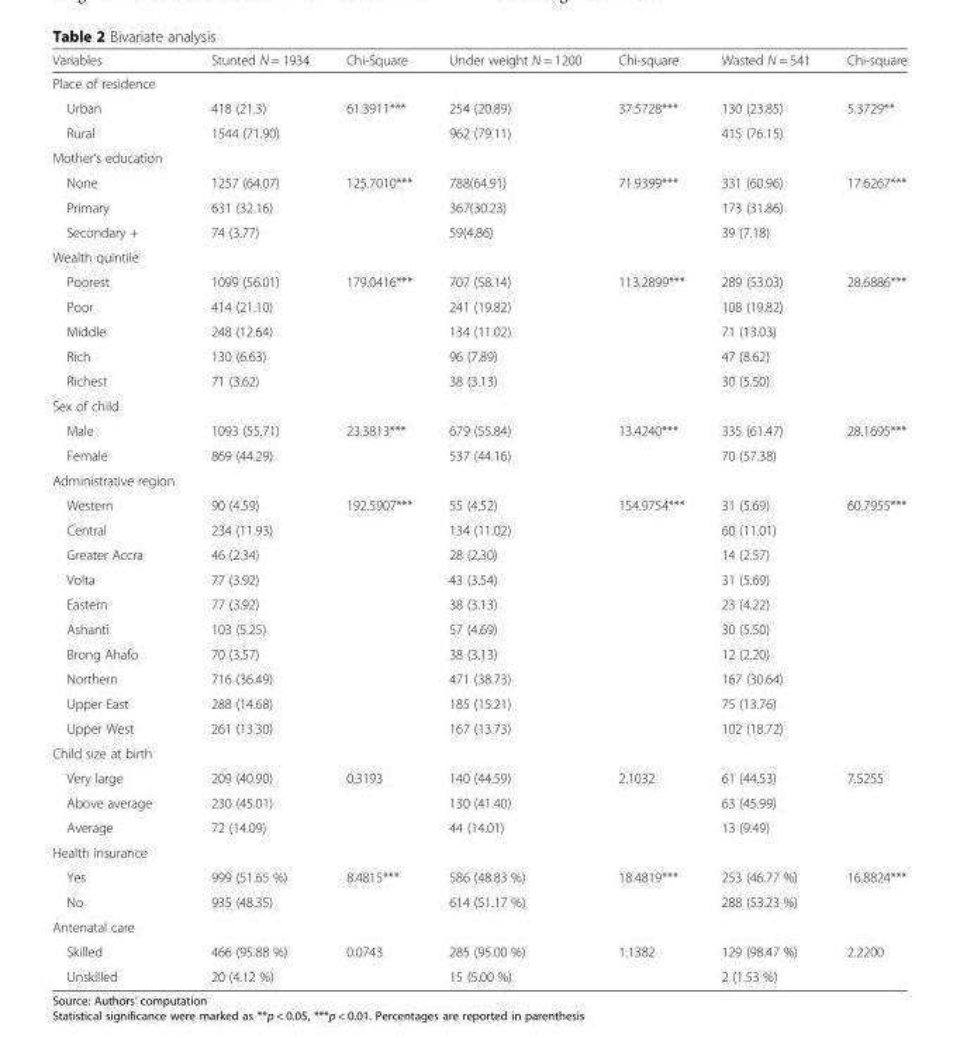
<table><thead><tr><td>Variables</td><td>Stunted N = 1934</td><td>Chi-Square</td><td>Under weight N = 1200</td><td>Chi-square</td><td>Wasted N = 541</td><td>Chi-square</td></tr></thead><tbody><tr><td colspan="7">Place of residence</td></tr><tr><td>Urban</td><td>418 (21.3)</td><td>61.3911***</td><td>254 (20.89)</td><td>37.5728***</td><td>130 (23.85)</td><td>5.3729**</td></tr><tr><td>Rural</td><td>1544 (71.90)</td><td></td><td>962 (79.11)</td><td></td><td>415 (76.15)</td><td></td></tr><tr><td colspan="7">Mother’s education</td></tr><tr><td>None</td><td>1257 (64.07)</td><td>125.7010***</td><td>788(64.91)</td><td>71.9399***</td><td>331 (60.96)</td><td>17.6267***</td></tr><tr><td>Primary</td><td>631 (32.16)</td><td></td><td>367(30.23)</td><td></td><td>173 (31.86)</td><td></td></tr><tr><td>Secondary +</td><td>74 (3.77)</td><td></td><td>59(4.86)</td><td></td><td>39 (7.18)</td><td></td></tr><tr><td colspan="7">Wealth quintile</td></tr><tr><td>Poorest</td><td>1099 (56.01)</td><td>179.0416***</td><td>707 (58.14)</td><td>113.2899***</td><td>289 (53.03)</td><td>28.6886***</td></tr><tr><td>Poor</td><td>414 (21.10)</td><td></td><td>241 (19.82)</td><td></td><td>108 (19.82)</td><td></td></tr><tr><td>Middle</td><td>248 (12.64)</td><td></td><td>134 (11.02)</td><td></td><td>71 (13.03)</td><td></td></tr><tr><td>Rich</td><td>130 (6.63)</td><td></td><td>96 (7.89)</td><td></td><td>47 (8.62)</td><td></td></tr><tr><td>Richest</td><td>71 (3.62)</td><td></td><td>38 (3.13)</td><td></td><td>30 (5.50)</td><td></td></tr><tr><td colspan="7">Sex of child</td></tr><tr><td>Male</td><td>1093 (55.71)</td><td>23.3813***</td><td>679 (55.84)</td><td>13.4240***</td><td>335 (61.47)</td><td>28.1695***</td></tr><tr><td>Female</td><td>869 (44.29)</td><td></td><td>537 (44.16)</td><td></td><td>70 (57.38)</td><td></td></tr><tr><td colspan="7">Administrative region</td></tr><tr><td>Western</td><td>90 (4.59)</td><td>192.5907***</td><td>55 (4.52)</td><td>154.9754***</td><td>31 (5.69)</td><td>60.7955***</td></tr><tr><td>Central</td><td>234 (11.93)</td><td></td><td>134 (11.02)</td><td></td><td>60 (11.01)</td><td></td></tr><tr><td>Greater Accra</td><td>46 (2.34)</td><td></td><td>28 (2.30)</td><td></td><td>14 (2.57)</td><td></td></tr><tr><td>Volta</td><td>77 (3.92)</td><td></td><td>43 (3.54)</td><td></td><td>31 (5.69)</td><td></td></tr><tr><td>Eastern</td><td>77 (3.92)</td><td></td><td>38 (3.13)</td><td></td><td>23 (4.22)</td><td></td></tr><tr><td>Ashanti</td><td>103 (5.25)</td><td></td><td>57 (4.69)</td><td></td><td>30 (5.50)</td><td></td></tr><tr><td>Brong Ahafo</td><td>70 (3.57)</td><td></td><td>38 (3.13)</td><td></td><td>12 (2.20)</td><td></td></tr><tr><td>Northern</td><td>716 (36.49)</td><td></td><td>471 (38.73)</td><td></td><td>167 (30.64)</td><td></td></tr><tr><td>Upper East</td><td>288 (14.68)</td><td></td><td>185 (15.21)</td><td></td><td>75 (13.76)</td><td></td></tr><tr><td>Upper West</td><td>261 (13.30)</td><td></td><td>167 (13.73)</td><td></td><td>102 (18.72)</td><td></td></tr><tr><td colspan="7">Child size at birth</td></tr><tr><td>Very large</td><td>209 (40.90)</td><td>0.3193</td><td>140 (44.59)</td><td>2.1032</td><td>61 (44.53)</td><td>7.5255</td></tr><tr><td>Above average</td><td>230 (45.01)</td><td></td><td>130 (41.40)</td><td></td><td>63 (45.99)</td><td></td></tr><tr><td>Average</td><td>72 (14.09)</td><td></td><td>44 (14.01)</td><td></td><td>13 (9.49)</td><td></td></tr><tr><td colspan="7">Health insurance</td></tr><tr><td>Yes</td><td>999 (51.65 %)</td><td>8.4815***</td><td>586 (48.83 %)</td><td>18.4819***</td><td>253 (46.77 %)</td><td>16.8824***</td></tr><tr><td>No</td><td>935 (48.35)</td><td></td><td>614 (51.17 %)</td><td></td><td>288 (53.23 %)</td><td></td></tr><tr><td colspan="7">Antenatal care</td></tr><tr><td>Skilled</td><td>466 (95.88 %)</td><td>0.0743</td><td>285 (95.00 %)</td><td>1.1382</td><td>129 (98.47 %)</td><td>2.2200</td></tr><tr><td>Unskilled</td><td>20 (4.12 %)</td><td></td><td>15 (5.00 %)</td><td></td><td>2 (1.53 %)</td><td></td></tr></tbody></table>